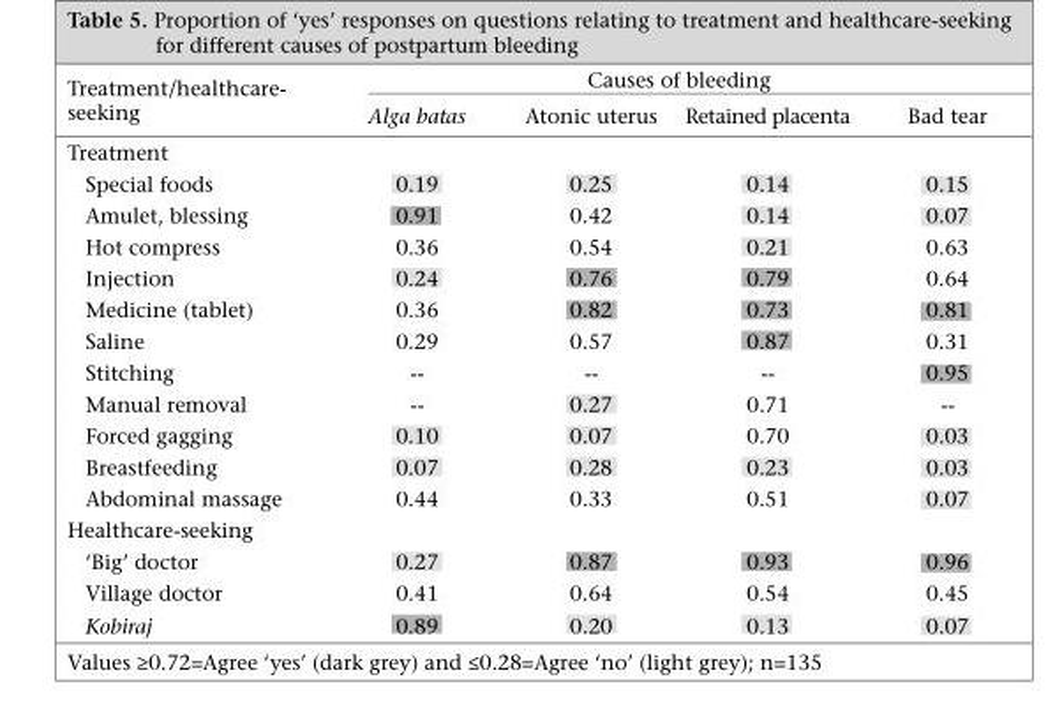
<table><thead><tr><td rowspan="2">Treatment/healthcare- seeking</td><td colspan="4">Causes of bleeding</td></tr><tr><td>Alga batas</td><td>Atonic uterus</td><td>Retained placenta</td><td>Bad tear</td></tr></thead><tbody><tr><td colspan="5">Treatment</td></tr><tr><td>Special foods</td><td>0.19</td><td>0.25</td><td>0.14</td><td>0.15</td></tr><tr><td>Amulet, blessing</td><td>0.91</td><td>0.42</td><td>0.14</td><td>0.07</td></tr><tr><td>Hot compress</td><td>0.36</td><td>0.54</td><td>0.21</td><td>0.63</td></tr><tr><td>Injection</td><td>0.24</td><td>0.76</td><td>0.79</td><td>0.64</td></tr><tr><td>Medicine (tablet)</td><td>0.36</td><td>0.82</td><td>0.73</td><td>0.81</td></tr><tr><td>Saline</td><td>0.29</td><td>0.57</td><td>0.87</td><td>0.31</td></tr><tr><td>Stitching</td><td>--</td><td>--</td><td>--</td><td>0.95</td></tr><tr><td>Manual removal</td><td>--</td><td>0.27</td><td>0.71</td><td>--</td></tr><tr><td>Forced gagging</td><td>0.10</td><td>0.07</td><td>0.70</td><td>0.03</td></tr><tr><td>Breastfeeding</td><td>0.07</td><td>0.28</td><td>0.23</td><td>0.03</td></tr><tr><td>Abdominal massage</td><td>0.44</td><td>0.33</td><td>0.51</td><td>0.07</td></tr><tr><td colspan="5">Healthcare-seeking</td></tr><tr><td>‘Big’ doctor</td><td>0.27</td><td>0.87</td><td>0.93</td><td>0.96</td></tr><tr><td>Village doctor</td><td>0.41</td><td>0.64</td><td>0.54</td><td>0.45</td></tr><tr><td>Kobiraj</td><td>0.89</td><td>0.20</td><td>0.13</td><td>0.07</td></tr></tbody></table>